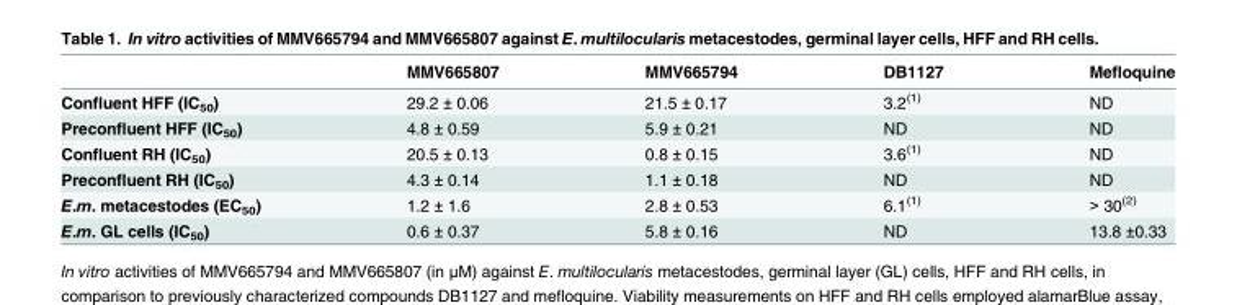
<table><thead><tr><td></td><td>MMV665807</td><td>MMV665794</td><td>DB1127</td><td>Mefloquine</td></tr></thead><tbody><tr><td>Confluent HFF (IC<sub>50</sub>)</td><td>29.2 ± 0.06</td><td>21.5 ± 0.17</td><td>3.2<sup>(1)</sup></td><td>ND</td></tr><tr><td>Preconfluent HFF (IC<sub>50</sub>)</td><td>4.8 ± 0.59</td><td>5.9 ± 0.21</td><td>ND</td><td>ND</td></tr><tr><td>Confluent RH (IC<sub>50</sub>)</td><td>20.5 ± 0.13</td><td>0.8 ± 0.15</td><td>3.6<sup>(1)</sup></td><td>ND</td></tr><tr><td>Preconfluent RH (IC<sub>50</sub>)</td><td>4.3 ± 0.14</td><td>1.1 ± 0.18</td><td>ND</td><td>ND</td></tr><tr><td>E.m. metacestodes (EC<sub>50</sub>)</td><td>1.2 ± 1.6</td><td>2.8 ± 0.53</td><td>6.1<sup>(1)</sup></td><td>&gt; 30<sup>(2)</sup></td></tr><tr><td>E.m. GL cells (IC<sub>50</sub>)</td><td>0.6 ± 0.37</td><td>5.8 ± 0.16</td><td>ND</td><td>13.8 ±0.33</td></tr></tbody></table>